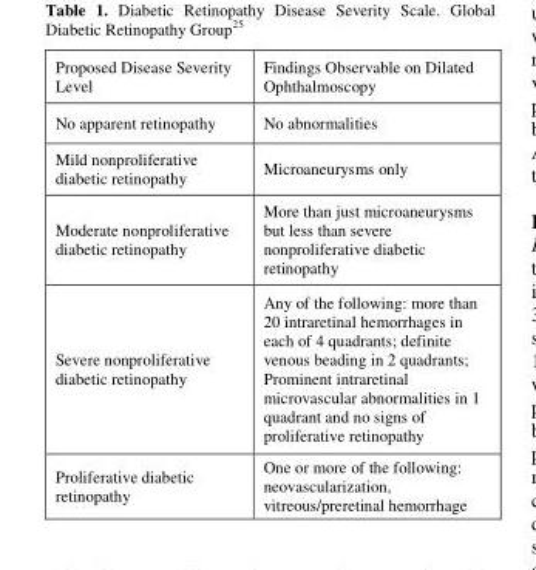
<table><tbody><tr><td>Proposed Disease Severity Level</td><td>Findings Observable on Dilated Ophthalmoscopy</td></tr><tr><td>No apparent retinopathy</td><td>No abnormalities</td></tr><tr><td>Mild nonproliferative diabetic retinopathy</td><td>Microaneurysms only</td></tr><tr><td>Moderate nonproliferative diabetic retinopathy</td><td>More than just microaneurysms but less than severe nonproliferative diabetic retinopathy</td></tr><tr><td>Severe nonproliferative diabetic retinopathy</td><td>Any of the following: more than 20 intraretinal hemorrhages in each of 4 quadrants; definite venous beading in 2 quadrants; Prominent intraretinal microvascular abnormalities in 1 quadrant and no signs of proliferative retinopathy</td></tr><tr><td>Proliferative diabetic retinopathy</td><td>One or more of the following: neovascularization, vitreous/preretinal hemorrhage</td></tr></tbody></table>